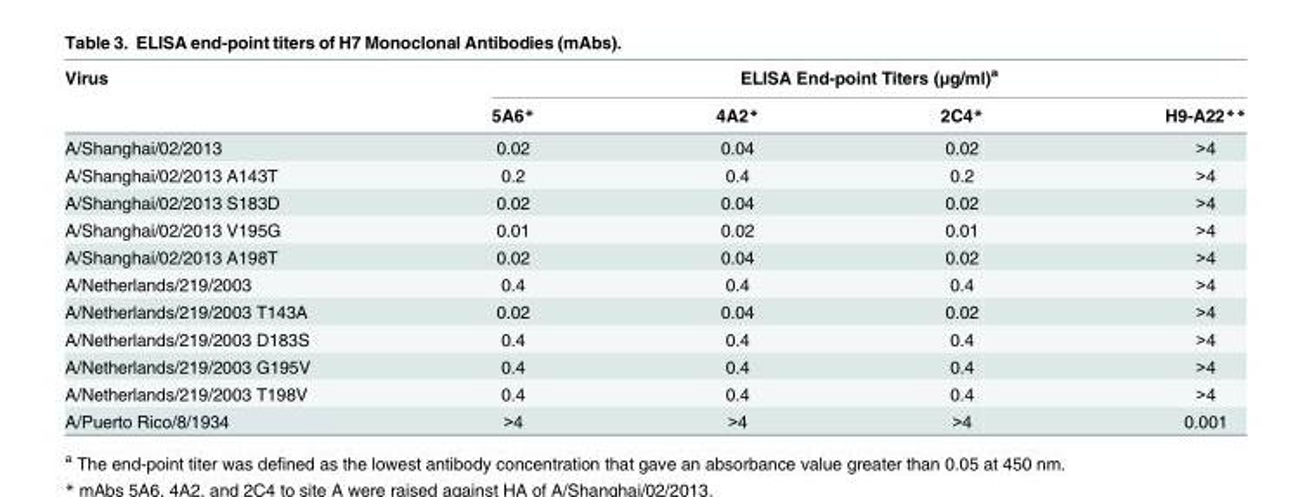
<table><thead><tr><td rowspan="2">Virus</td><td colspan="4">ELISA End-point Titers (μg/ml)<sup>a</sup></td></tr><tr><td>5A6*</td><td>4A2*</td><td>2C4*</td><td>H9-A22**</td></tr></thead><tbody><tr><td>A/Shanghai/02/2013</td><td>0.02</td><td>0.04</td><td>0.02</td><td>&gt;4</td></tr><tr><td>A/Shanghai/02/2013 A143T</td><td>0.2</td><td>0.4</td><td>0.2</td><td>&gt;4</td></tr><tr><td>A/Shanghai/02/2013 S183D</td><td>0.02</td><td>0.04</td><td>0.02</td><td>&gt;4</td></tr><tr><td>A/Shanghai/02/2013 V195G</td><td>0.01</td><td>0.02</td><td>0.01</td><td>&gt;4</td></tr><tr><td>A/Shanghai/02/2013 A198T</td><td>0.02</td><td>0.04</td><td>0.02</td><td>&gt;4</td></tr><tr><td>A/Netherlands/219/2003</td><td>0.4</td><td>0.4</td><td>0.4</td><td>&gt;4</td></tr><tr><td>A/Netherlands/219/2003 T143A</td><td>0.02</td><td>0.04</td><td>0.02</td><td>&gt;4</td></tr><tr><td>A/Netherlands/219/2003 D183S</td><td>0.4</td><td>0.4</td><td>0.4</td><td>&gt;4</td></tr><tr><td>A/Netherlands/219/2003 G195V</td><td>0.4</td><td>0.4</td><td>0.4</td><td>&gt;4</td></tr><tr><td>A/Netherlands/219/2003 T198V</td><td>0.4</td><td>0.4</td><td>0.4</td><td>&gt;4</td></tr><tr><td>A/Puerto Rico/8/1934</td><td>&gt;4</td><td>&gt;4</td><td>&gt;4</td><td>0.001</td></tr></tbody></table>